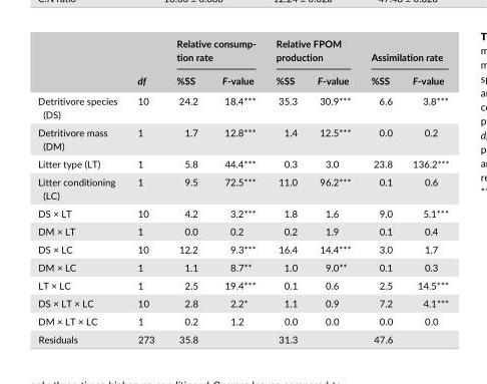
<table><thead><tr><td rowspan="2"></td><td rowspan="2">df</td><td colspan="2">Relative consump- tion rate</td><td colspan="2">Relative FPOM production</td><td colspan="2">Assimilation rate</td></tr><tr><td>%SS</td><td>F- value</td><td>%SS</td><td>F- value</td><td>%SS</td><td>F- value</td></tr></thead><tbody><tr><td>Detritivore species (DS)</td><td>10</td><td>24.2</td><td>18.4***</td><td>35.3</td><td>30.9***</td><td>6.6</td><td>3.8***</td></tr><tr><td>Detritivore mass (DM)</td><td>1</td><td>1.7</td><td>12.8***</td><td>1.4</td><td>12.5***</td><td>0.0</td><td>0.2</td></tr><tr><td>Litter type (LT)</td><td>1</td><td>5.8</td><td>44.4***</td><td>0.3</td><td>3.0</td><td>23.8</td><td>136.2***</td></tr><tr><td>Litter conditioning (LC)</td><td>1</td><td>9.5</td><td>72.5***</td><td>11.0</td><td>96.2***</td><td>0.1</td><td>0.6</td></tr><tr><td>DS × LT</td><td>10</td><td>4.2</td><td>3.2***</td><td>1.8</td><td>1.6</td><td>9.0</td><td>5.1***</td></tr><tr><td>DM × LT</td><td>1</td><td>0.0</td><td>0.2</td><td>0.2</td><td>1.9</td><td>0.1</td><td>0.4</td></tr><tr><td>DS × LC</td><td>10</td><td>12.2</td><td>9.3***</td><td>16.4</td><td>14.4***</td><td>3.0</td><td>1.7</td></tr><tr><td>DM × LC</td><td>1</td><td>1.1</td><td>8.7**</td><td>1.0</td><td>9.0**</td><td>0.1</td><td>0.3</td></tr><tr><td>LT × LC</td><td>1</td><td>2.5</td><td>19.4***</td><td>0.1</td><td>0.6</td><td>2.5</td><td>14.5***</td></tr><tr><td>DS × LT × LC</td><td>10</td><td>2.8</td><td>2.2*</td><td>1.1</td><td>0.9</td><td>7.2</td><td>4.1***</td></tr><tr><td>DM × LT × LC</td><td>1</td><td>0.2</td><td>1.2</td><td>0.0</td><td>0.0</td><td>0.0</td><td>0.0</td></tr><tr><td>Residuals</td><td>273</td><td>35.8</td><td></td><td>31.3</td><td></td><td>47.6</td><td></td></tr></tbody></table>